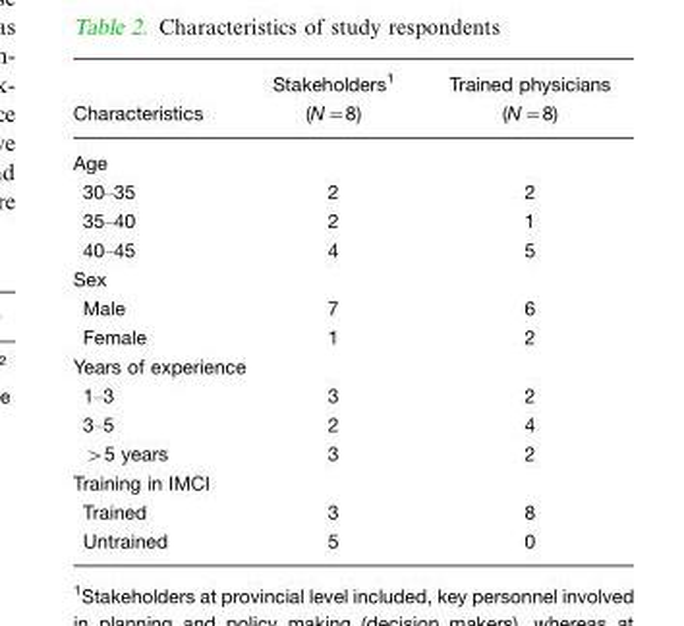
<table><thead><tr><td>Characteristics</td><td>Stakeholders<sup>1</sup> (N=8)</td><td>Trained physicians (N=8)</td></tr></thead><tbody><tr><td colspan="3">Age</td></tr><tr><td>30–35</td><td>2</td><td>2</td></tr><tr><td>35–40</td><td>2</td><td>1</td></tr><tr><td>40–45</td><td>4</td><td>5</td></tr><tr><td colspan="3">Sex</td></tr><tr><td>Male</td><td>7</td><td>6</td></tr><tr><td>Female</td><td>1</td><td>2</td></tr><tr><td colspan="3">Years of experience</td></tr><tr><td>1–3</td><td>3</td><td>2</td></tr><tr><td>3–5</td><td>2</td><td>4</td></tr><tr><td>&gt;5 years</td><td>3</td><td>2</td></tr><tr><td colspan="3">Training in IMCI</td></tr><tr><td>Trained</td><td>3</td><td>8</td></tr><tr><td>Untrained</td><td>5</td><td>0</td></tr></tbody></table>